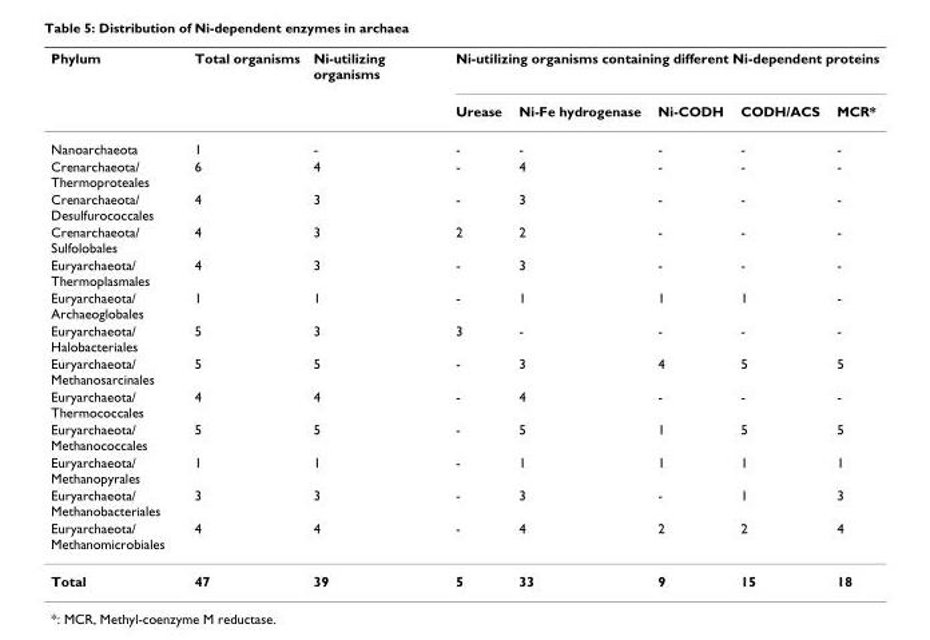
<table><thead><tr><td rowspan="2">Phylum</td><td rowspan="2">Total organisms</td><td rowspan="2">Ni-utilizing organisms</td><td colspan="5">Ni-utilizing organisms containing different Ni-dependent proteins</td></tr><tr><td>Urease</td><td>Ni-Fe hydrogenase</td><td>Ni-CODH</td><td>CODH/ACS</td><td>MCR*</td></tr></thead><tbody><tr><td>Nanoarchaeota</td><td>1</td><td>-</td><td>-</td><td>-</td><td>-</td><td>-</td><td>-</td></tr><tr><td>Crenarchaeota/ Thermoproteales</td><td>6</td><td>4</td><td>-</td><td>4</td><td>-</td><td>-</td><td>-</td></tr><tr><td>Crenarchaeota/ Desulfurococcales</td><td>4</td><td>3</td><td>-</td><td>3</td><td>-</td><td>-</td><td>-</td></tr><tr><td>Crenarchaeota/ Sulfolobales</td><td>4</td><td>3</td><td>2</td><td>2</td><td>-</td><td>-</td><td>-</td></tr><tr><td>Euryarchaeota/ Thermoplasmales</td><td>4</td><td>3</td><td>-</td><td>3</td><td>-</td><td>-</td><td>-</td></tr><tr><td>Euryarchaeota/ Archaeoglobales</td><td>1</td><td>1</td><td>-</td><td>1</td><td>1</td><td>1</td><td>-</td></tr><tr><td>Euryarchaeota/ Halobacteriales</td><td>5</td><td>3</td><td>3</td><td>-</td><td>-</td><td>-</td><td>-</td></tr><tr><td>Euryarchaeota/ Methanosarcinales</td><td>5</td><td>5</td><td>-</td><td>3</td><td>4</td><td>5</td><td>5</td></tr><tr><td>Euryarchaeota/ Thermococcales</td><td>4</td><td>4</td><td>-</td><td>4</td><td>-</td><td>-</td><td>-</td></tr><tr><td>Euryarchaeota/ Methanococcales</td><td>5</td><td>5</td><td>-</td><td>5</td><td>1</td><td>5</td><td>5</td></tr><tr><td>Euryarchaeota/ Methanopyrales</td><td>1</td><td>1</td><td>-</td><td>1</td><td>1</td><td>1</td><td>1</td></tr><tr><td>Euryarchaeota/ Methanobacteriales</td><td>3</td><td>3</td><td>-</td><td>3</td><td>-</td><td>1</td><td>3</td></tr><tr><td>Euryarchaeota/ Methanomicrobiales</td><td>4</td><td>4</td><td>-</td><td>4</td><td>2</td><td>2</td><td>4</td></tr><tr><td>Total</td><td>47</td><td>39</td><td>5</td><td>33</td><td>9</td><td>15</td><td>18</td></tr></tbody></table>